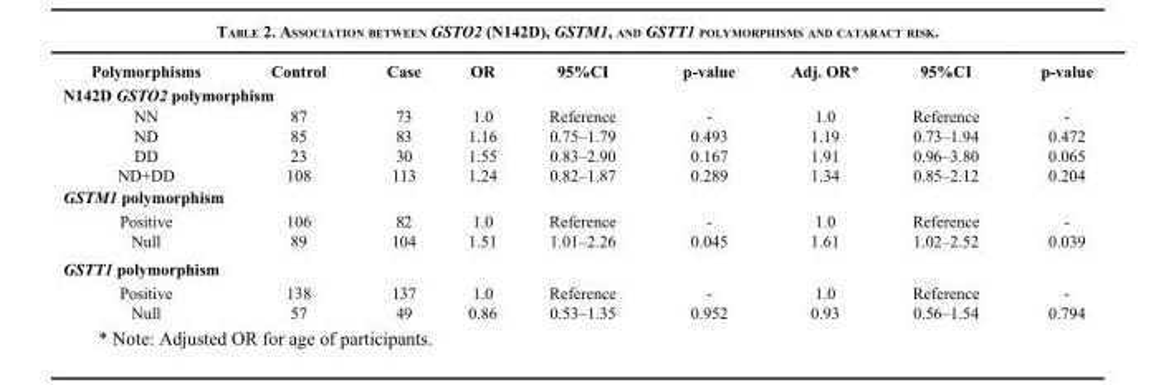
<table><thead><tr><td>Polymorphisms</td><td>Control</td><td>Case</td><td>OR</td><td>95%CI</td><td>p-value</td><td>Adj. OR*</td><td>95%CI</td><td>p-value</td></tr></thead><tbody><tr><td colspan="9">N142D GSTO2 polymorphism</td></tr><tr><td>NN</td><td>87</td><td>73</td><td>1.0</td><td>Reference</td><td>-</td><td>1.0</td><td>Reference</td><td>-</td></tr><tr><td>ND</td><td>85</td><td>83</td><td>1.16</td><td>0.75–1.79</td><td>0.493</td><td>1.19</td><td>0.73–1.94</td><td>0.472</td></tr><tr><td>DD</td><td>23</td><td>30</td><td>1.55</td><td>0.83–2.90</td><td>0.167</td><td>1.91</td><td>0.96–3.80</td><td>0.065</td></tr><tr><td>ND+DD</td><td>108</td><td>113</td><td>1.24</td><td>0.82–1.87</td><td>0.289</td><td>1.34</td><td>0.85–2.12</td><td>0.204</td></tr><tr><td colspan="9">GSTM1 polymorphism</td></tr><tr><td>Positive</td><td>106</td><td>82</td><td>1.0</td><td>Reference</td><td>-</td><td>1.0</td><td>Reference</td><td>-</td></tr><tr><td>Null</td><td>89</td><td>104</td><td>1.51</td><td>1.01–2.26</td><td>0.045</td><td>1.61</td><td>1.02–2.52</td><td>0.039</td></tr><tr><td colspan="9">GSTT1 polymorphism</td></tr><tr><td>Positive</td><td>138</td><td>137</td><td>1.0</td><td>Reference</td><td>-</td><td>1.0</td><td>Reference</td><td>-</td></tr><tr><td>Null</td><td>57</td><td>49</td><td>0.86</td><td>0.53–1.35</td><td>0.952</td><td>0.93</td><td>0.56–1.54</td><td>0.794</td></tr></tbody></table>